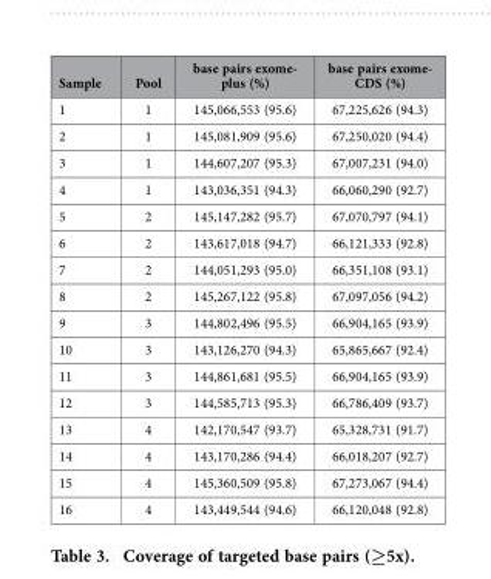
<table><thead><tr><td>Sample</td><td>Pool</td><td>base pairs exome- plus (%)</td><td>base pairs exome- CDS (%)</td></tr></thead><tbody><tr><td>1</td><td>1</td><td>145,066,553 (95.6)</td><td>67,225,626 (94.3)</td></tr><tr><td>2</td><td>1</td><td>145,081,909 (95.6)</td><td>67,250,020 (94.4)</td></tr><tr><td>3</td><td>1</td><td>144,607,207 (95.3)</td><td>67,007,231 (94.0)</td></tr><tr><td>4</td><td>1</td><td>143,036,351 (94.3)</td><td>66,060,290 (92.7)</td></tr><tr><td>5</td><td>2</td><td>145,147,282 (95.7)</td><td>67,070,797 (94.1)</td></tr><tr><td>6</td><td>2</td><td>143,617,018 (94.7)</td><td>66,121,333 (92.8)</td></tr><tr><td>7</td><td>2</td><td>144,051,293 (95.0)</td><td>66,351,108 (93.1)</td></tr><tr><td>8</td><td>2</td><td>145,267,122 (95.8)</td><td>67,097,056 (94.2)</td></tr><tr><td>9</td><td>3</td><td>144,802,496 (95.5)</td><td>66,904,165 (93.9)</td></tr><tr><td>10</td><td>3</td><td>143,126,270 (94.3)</td><td>65,865,667 (92.4)</td></tr><tr><td>11</td><td>3</td><td>144,861,681 (95.5)</td><td>66,904,165 (93.9)</td></tr><tr><td>12</td><td>3</td><td>144,585,713 (95.3)</td><td>66,786,409 (93.7)</td></tr><tr><td>13</td><td>4</td><td>142,170,547 (93.7)</td><td>65,328,731 (91.7)</td></tr><tr><td>14</td><td>4</td><td>143,170,286 (94.4)</td><td>66,018,207 (92.7)</td></tr><tr><td>15</td><td>4</td><td>145,360,509 (95.8)</td><td>67,273,067 (94.4)</td></tr><tr><td>16</td><td>4</td><td>143,449,544 (94.6)</td><td>66,120,048 (92.8)</td></tr></tbody></table>